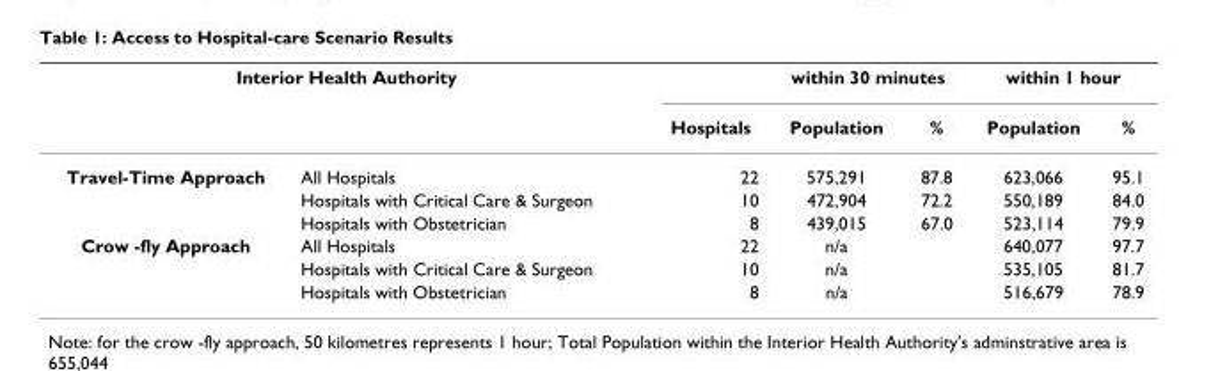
<table><thead><tr><td colspan="2">Interior Health Authority</td><td rowspan="2">Hospitals</td><td colspan="2">within 30 minutes</td><td colspan="2">within 1 hour</td></tr><tr><td></td><td></td><td>Population</td><td>%</td><td>Population</td><td>%</td></tr></thead><tbody><tr><td rowspan="3">Travel-Time Approach</td><td>All Hospitals</td><td>22</td><td>575,291</td><td>87.8</td><td>623,066</td><td>95.1</td></tr><tr><td>Hospitals with Critical Care &amp; Surgeon</td><td>10</td><td>472,904</td><td>72.2</td><td>550,189</td><td>84.0</td></tr><tr><td>Hospitals with Obstetrician</td><td>8</td><td>439,015</td><td>67.0</td><td>523,114</td><td>79.9</td></tr><tr><td rowspan="3">Crow -fly Approach</td><td>All Hospitals</td><td>22</td><td>n/a</td><td></td><td>640,077</td><td>97.7</td></tr><tr><td>Hospitals with Critical Care &amp; Surgeon</td><td>10</td><td>n/a</td><td></td><td>535,105</td><td>81.7</td></tr><tr><td>Hospitals with Obstetrician</td><td>8</td><td>n/a</td><td></td><td>516,679</td><td>78.9</td></tr></tbody></table>